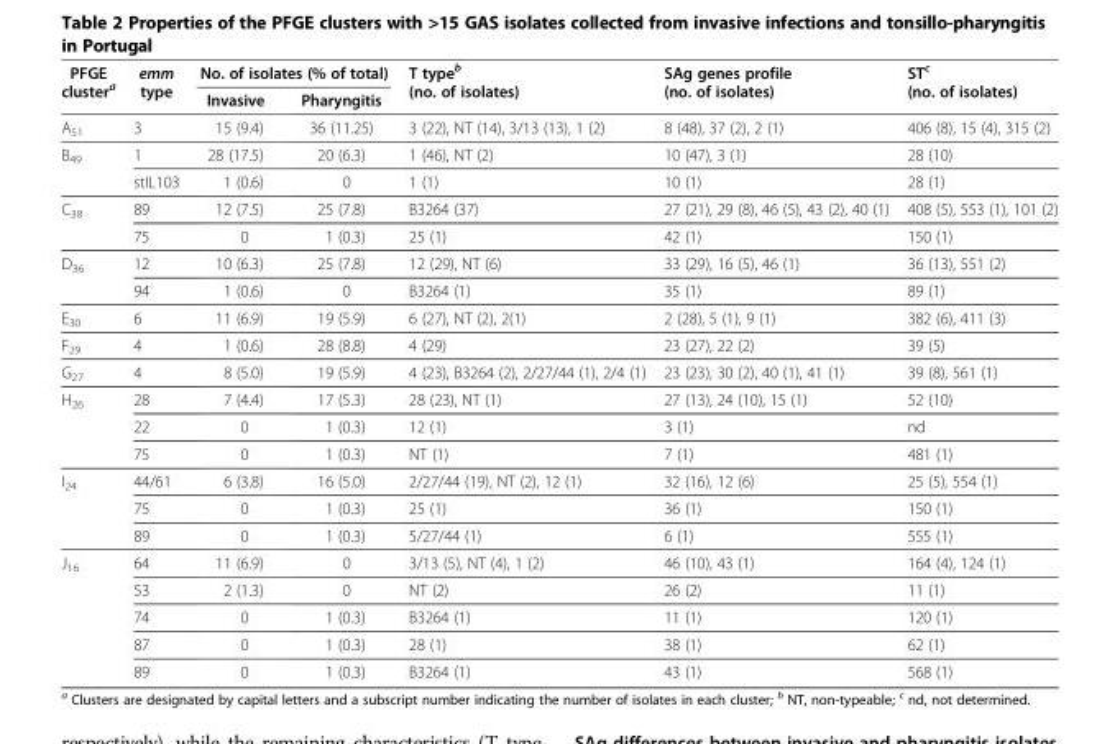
<table><thead><tr><td rowspan="2">PFGE cluster<sup>a</sup></td><td rowspan="2">emm type</td><td colspan="2">No. of isolates (% of total)</td><td rowspan="2">T type<sup>b</sup> (no. of isolates)</td><td rowspan="2">SAg genes profile (no. of isolates)</td><td rowspan="2">ST<sup>c</sup> (no. of isolates)</td></tr><tr><td>Invasive</td><td>Pharyngitis</td></tr></thead><tbody><tr><td>A<sub>51</sub></td><td>3</td><td>15 (9.4)</td><td>36 (11.25)</td><td>3 (22), NT (14), 3/13 (13), 1 (2)</td><td>8 (48), 37 (2), 2 (1)</td><td>406 (8), 15 (4), 315 (2)</td></tr><tr><td rowspan="2">B<sub>49</sub></td><td>1</td><td>28 (17.5)</td><td>20 (6.3)</td><td>1 (46), NT (2)</td><td>10 (47), 3 (1)</td><td>28 (10)</td></tr><tr><td>stIL103</td><td>1 (0.6)</td><td>0</td><td>1 (1)</td><td>10 (1)</td><td>28 (1)</td></tr><tr><td rowspan="2">C<sub>38</sub></td><td>89</td><td>12 (7.5)</td><td>25 (7.8)</td><td>B3264 (37)</td><td>27 (21), 29 (8), 46 (5), 43 (2), 40 (1)</td><td>408 (5), 553 (1), 101 (2)</td></tr><tr><td>75</td><td>0</td><td>1 (0.3)</td><td>25 (1)</td><td>42 (1)</td><td>150 (1)</td></tr><tr><td rowspan="2">D<sub>36</sub></td><td>12</td><td>10 (6.3)</td><td>25 (7.8)</td><td>12 (29), NT (6)</td><td>33 (29), 16 (5), 46 (1)</td><td>36 (13), 551 (2)</td></tr><tr><td>94</td><td>1 (0.6)</td><td>0</td><td>B3264 (1)</td><td>35 (1)</td><td>89 (1)</td></tr><tr><td>E<sub>30</sub></td><td>6</td><td>11 (6.9)</td><td>19 (5.9)</td><td>6 (27), NT (2), 2(1)</td><td>2 (28), 5 (1), 9 (1)</td><td>382 (6), 411 (3)</td></tr><tr><td>F<sub>29</sub></td><td>4</td><td>1 (0.6)</td><td>28 (8.8)</td><td>4 (29)</td><td>23 (27), 22 (2)</td><td>39 (5)</td></tr><tr><td>G<sub>27</sub></td><td>4</td><td>8 (5.0)</td><td>19 (5.9)</td><td>4 (23), B3264 (2), 2/27/44 (1), 2/4 (1)</td><td>23 (23), 30 (2), 40 (1), 41 (1)</td><td>39 (8), 561 (1)</td></tr><tr><td rowspan="3">H<sub>26</sub></td><td>28</td><td>7 (4.4)</td><td>17 (5.3)</td><td>28 (23), NT (1)</td><td>27 (13), 24 (10), 15 (1)</td><td>52 (10)</td></tr><tr><td>22</td><td>0</td><td>1 (0.3)</td><td>12 (1)</td><td>3 (1)</td><td>nd</td></tr><tr><td>75</td><td>0</td><td>1 (0.3)</td><td>NT (1)</td><td>7 (1)</td><td>481 (1)</td></tr><tr><td rowspan="3">I<sub>24</sub></td><td>44/61</td><td>6 (3.8)</td><td>16 (5.0)</td><td>2/27/44 (19), NT (2), 12 (1)</td><td>32 (16), 12 (6)</td><td>25 (5), 554 (1)</td></tr><tr><td>75</td><td>0</td><td>1 (0.3)</td><td>25 (1)</td><td>36 (1)</td><td>150 (1)</td></tr><tr><td>89</td><td>0</td><td>1 (0.3)</td><td>5/27/44 (1)</td><td>6 (1)</td><td>555 (1)</td></tr><tr><td rowspan="5">J<sub>16</sub></td><td>64</td><td>11 (6.9)</td><td>0</td><td>3/13 (5), NT (4), 1 (2)</td><td>46 (10), 43 (1)</td><td>164 (4), 124 (1)</td></tr><tr><td>53</td><td>2 (1.3)</td><td>0</td><td>NT (2)</td><td>26 (2)</td><td>11 (1)</td></tr><tr><td>74</td><td>0</td><td>1 (0.3)</td><td>B3264 (1)</td><td>11 (1)</td><td>120 (1)</td></tr><tr><td>87</td><td>0</td><td>1 (0.3)</td><td>28 (1)</td><td>38 (1)</td><td>62 (1)</td></tr><tr><td>89</td><td>0</td><td>1 (0.3)</td><td>B3264 (1)</td><td>43 (1)</td><td>568 (1)</td></tr></tbody></table>